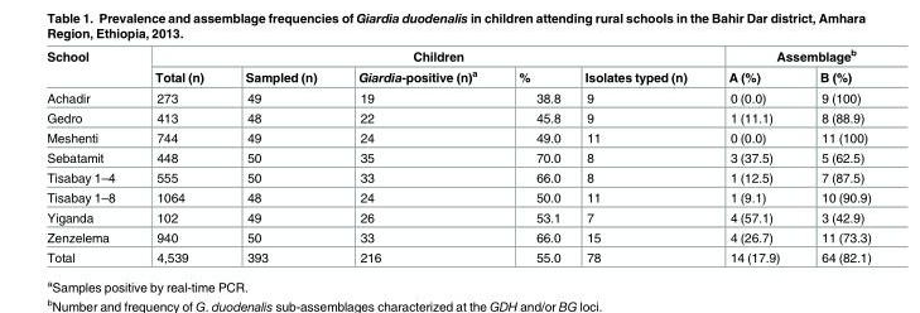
<table><thead><tr><td rowspan="2">School</td><td colspan="5">Children</td><td colspan="2">Assemblage<sup>b</sup></td></tr><tr><td>Total (n)</td><td>Sampled (n)</td><td>Giardia-positive (n)<sup>a</sup></td><td>%</td><td>Isolates typed (n)</td><td>A (%)</td><td>B (%)</td></tr></thead><tbody><tr><td>Achadir</td><td>273</td><td>49</td><td>19</td><td>38.8</td><td>9</td><td>0 (0.0)</td><td>9 (100)</td></tr><tr><td>Gedro</td><td>413</td><td>48</td><td>22</td><td>45.8</td><td>9</td><td>1 (11.1)</td><td>8 (88.9)</td></tr><tr><td>Meshenti</td><td>744</td><td>49</td><td>24</td><td>49.0</td><td>11</td><td>0 (0.0)</td><td>11 (100)</td></tr><tr><td>Sebatamit</td><td>448</td><td>50</td><td>35</td><td>70.0</td><td>8</td><td>3 (37.5)</td><td>5 (62.5)</td></tr><tr><td>Tisabay 1–4</td><td>555</td><td>50</td><td>33</td><td>66.0</td><td>8</td><td>1 (12.5)</td><td>7 (87.5)</td></tr><tr><td>Tisabay 1–8</td><td>1064</td><td>48</td><td>24</td><td>50.0</td><td>11</td><td>1 (9.1)</td><td>10 (90.9)</td></tr><tr><td>Yiganda</td><td>102</td><td>49</td><td>26</td><td>53.1</td><td>7</td><td>4 (57.1)</td><td>3 (42.9)</td></tr><tr><td>Zenzelema</td><td>940</td><td>50</td><td>33</td><td>66.0</td><td>15</td><td>4 (26.7)</td><td>11 (73.3)</td></tr><tr><td>Total</td><td>4,539</td><td>393</td><td>216</td><td>55.0</td><td>78</td><td>14 (17.9)</td><td>64 (82.1)</td></tr></tbody></table>